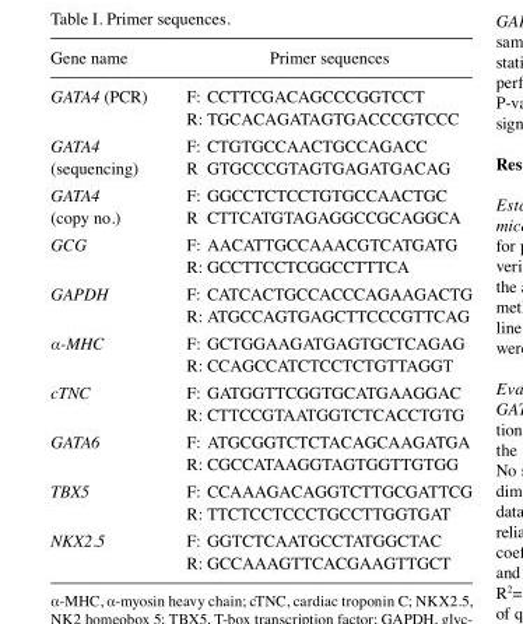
<table><thead><tr><td>Gene name</td><td>Primer sequences</td></tr></thead><tbody><tr><td>GATA4 (PCR)</td><td>F: CCTTCGACAGCCCGGTCCT R: TGCACAGATAGTGACCCGTCCC</td></tr><tr><td>GATA4 (sequencing)</td><td>F: CTGTGCCAACTGCCAGACC R GTGCCCGTAGTGAGATGACAG</td></tr><tr><td>GATA4 (copy no.)</td><td>F: GGCCTCTCCTGTGCCAACTGC R CTTCATGTAGAGGCCGCAGGCA</td></tr><tr><td>GCG</td><td>F: AACATTGCCAAACGTCATGATG R: GCCTTCCTCGGCCTTTCA</td></tr><tr><td>GAPDH</td><td>F: CATCACTGCCACCCAGAAGACTG R: ATGCCAGTGAGCTTCCCGTTCAG</td></tr><tr><td>α-MHC</td><td>F: GCTGGAAGATGAGTGCTCAGAG R: CCAGCCATCTCCTCTGTTAGGT</td></tr><tr><td>cTNC</td><td>F: GATGGTTCGGTGCATGAAGGAC R: CTTCCGTAATGGTCTCACCTGTG</td></tr><tr><td>GATA6</td><td>F: ATGCGGTCTCTACAGCAAGATGA R: CGCCATAAGGTAGTGGTTGTGG</td></tr><tr><td>TBX5</td><td>F: CCAAAGACAGGTCTTGCGATTCG R: TTCTCCTCCCTGCCTTGGTGAT</td></tr><tr><td>NKX2.5</td><td>F: GGTCTCAATGCCTATGGCTAC R: GCCAAAGTTCACGAAGTTGCT</td></tr></tbody></table>